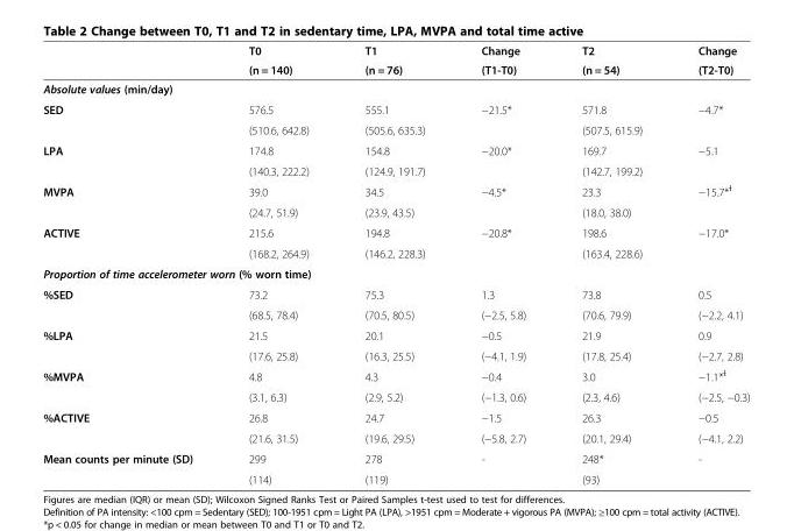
<table><thead><tr><td rowspan="2"></td><td rowspan="2">T0 (n = 140)</td><td rowspan="2">T1 (n = 76)</td><td rowspan="2">Change (T1-T0)</td><td rowspan="2">T2 (n = 54)</td><td rowspan="2">Change (T2-T0)</td></tr><tr></tr></thead><tbody><tr><td colspan="6">Absolute values (min/day)</td></tr><tr><td rowspan="2">SED</td><td>576.5</td><td>555.1</td><td>−21.5*</td><td>571.8</td><td rowspan="2">−4.7*</td></tr><tr><td>(510.6, 642.8)</td><td>(505.6, 635.3)</td><td></td><td>(507.5, 615.9)</td></tr><tr><td rowspan="2">LPA</td><td>174.8</td><td>154.8</td><td>−20.0*</td><td>169.7</td><td rowspan="2">−5.1</td></tr><tr><td>(140.3, 222.2)</td><td>(124.9, 191.7)</td><td></td><td>(142.7, 199.2)</td></tr><tr><td rowspan="2">MVPA</td><td>39.0</td><td>34.5</td><td>−4.5*</td><td>23.3</td><td rowspan="2">−15.7*<sup>ƚ</sup></td></tr><tr><td>(24.7, 51.9)</td><td>(23.9, 43.5)</td><td></td><td>(18.0, 38.0)</td></tr><tr><td rowspan="2">ACTIVE</td><td>215.6</td><td>194.8</td><td>−20.8*</td><td>198.6</td><td rowspan="2">−17.0*</td></tr><tr><td>(168.2, 264.9)</td><td>(146.2, 228.3)</td><td></td><td>(163.4, 228.6)</td></tr><tr><td colspan="6">Proportion of time accelerometer worn (% worn time)</td></tr><tr><td rowspan="2">%SED</td><td>73.2</td><td>75.3</td><td>1.3</td><td>73.8</td><td>0.5</td></tr><tr><td>(68.5, 78.4)</td><td>(70.5, 80.5)</td><td>(−2.5, 5.8)</td><td>(70.6, 79.9)</td><td>(−2.2, 4.1)</td></tr><tr><td rowspan="2">%LPA</td><td>21.5</td><td>20.1</td><td>−0.5</td><td>21.9</td><td>0.9</td></tr><tr><td>(17.6, 25.8)</td><td>(16.3, 25.5)</td><td>(−4.1, 1.9)</td><td>(17.8, 25.4)</td><td>(−2.7, 2.8)</td></tr><tr><td rowspan="2">%MVPA</td><td>4.8</td><td>4.3</td><td>−0.4</td><td>3.0</td><td>−1.1*<sup>ƚ</sup></td></tr><tr><td>(3.1, 6.3)</td><td>(2.9, 5.2)</td><td>(−1.3, 0.6)</td><td>(2.3, 4.6)</td><td>(−2.5, −0.3)</td></tr><tr><td rowspan="2">%ACTIVE</td><td>26.8</td><td>24.7</td><td>−1.5</td><td>26.3</td><td>−0.5</td></tr><tr><td>(21.6, 31.5)</td><td>(19.6, 29.5)</td><td>(−5.8, 2.7)</td><td>(20.1, 29.4)</td><td>(−4.1, 2.2)</td></tr><tr><td rowspan="2">Mean counts per minute (SD)</td><td>299</td><td>278</td><td>-</td><td>248*</td><td rowspan="2">-</td></tr><tr><td>(114)</td><td>(119)</td><td></td><td>(93)</td></tr></tbody></table>